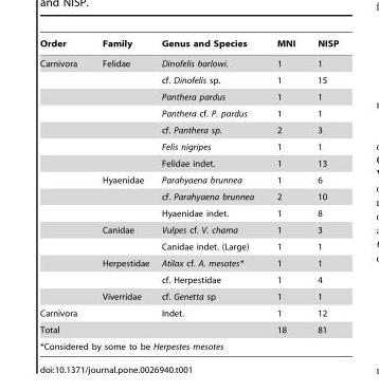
<table><thead><tr><td>Order</td><td>Family</td><td>Genus and Species</td><td>MNI</td><td>NISP</td></tr></thead><tbody><tr><td rowspan="15">Carnivora</td><td>Felidae</td><td>Dinofelis barlowi.</td><td>1</td><td>1</td></tr><tr><td></td><td>cf. Dinofelis sp.</td><td>1</td><td>15</td></tr><tr><td></td><td>Panthera pardus</td><td>1</td><td>1</td></tr><tr><td></td><td>Panthera cf. P. pardus</td><td>1</td><td>1</td></tr><tr><td></td><td>cf. Panthera sp.</td><td>2</td><td>3</td></tr><tr><td></td><td>Felis nigripes</td><td>1</td><td>1</td></tr><tr><td></td><td>Felidae indet.</td><td>1</td><td>13</td></tr><tr><td>Hyaenidae</td><td>Parahyaena brunnea</td><td>1</td><td>6</td></tr><tr><td></td><td>cf. Parahyaena brunnea</td><td>2</td><td>10</td></tr><tr><td></td><td>Hyaenidae indet.</td><td>1</td><td>8</td></tr><tr><td>Canidae</td><td>Vulpes cf. V. chama</td><td>1</td><td>3</td></tr><tr><td></td><td>Canidae indet. (Large)</td><td>1</td><td>1</td></tr><tr><td>Herpestidae</td><td>Atilax cf. A. mesotes*</td><td>1</td><td>1</td></tr><tr><td></td><td>cf. Herpestidae</td><td>1</td><td>4</td></tr><tr><td>Viverridae</td><td>cf. Genetta sp</td><td>1</td><td>1</td></tr><tr><td>Carnivora</td><td></td><td>Indet.</td><td>1</td><td>12</td></tr><tr><td>Total</td><td></td><td></td><td>18</td><td>81</td></tr><tr><td colspan="3">*Considered by some to be Herpestes mesotes</td><td></td><td></td></tr></tbody></table>